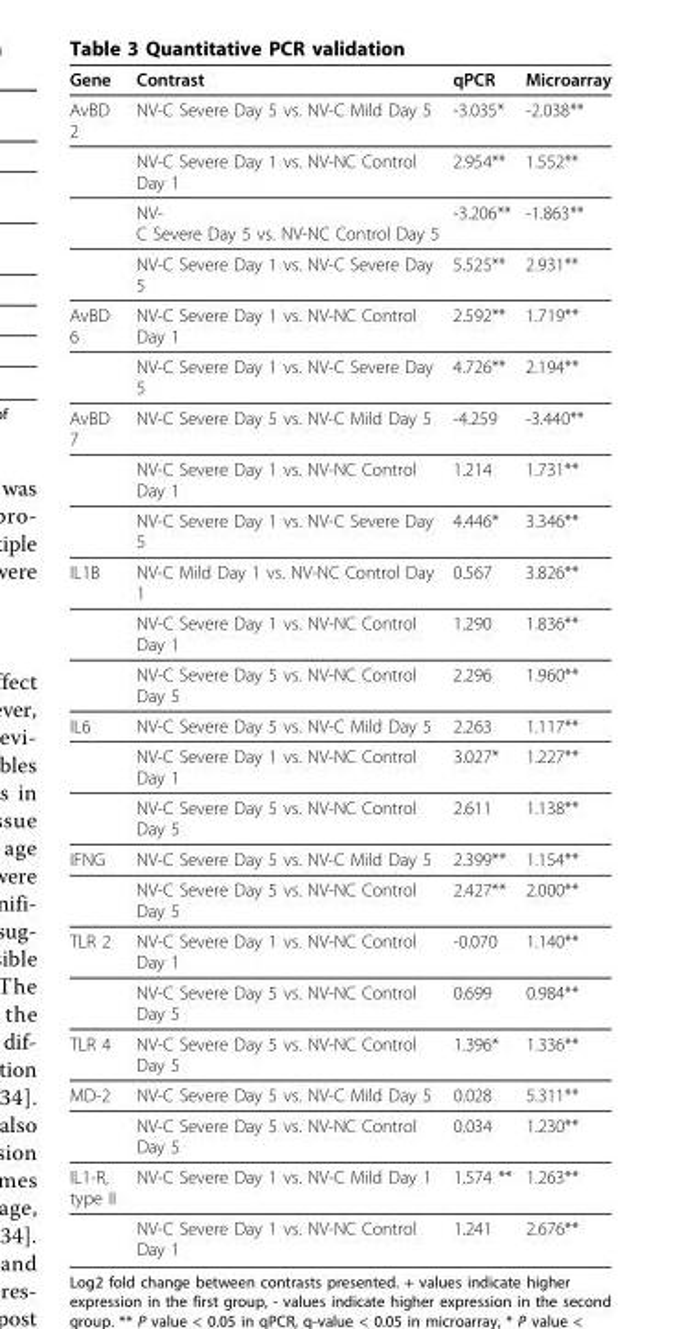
<table><thead><tr><td>Gene</td><td>Contrast</td><td>qPCR</td><td>Microarray</td></tr></thead><tbody><tr><td rowspan="4">AvBD 2</td><td>NV-C Severe Day 5 vs. NV-C Mild Day 5</td><td>-3.035*</td><td>-2.038**</td></tr><tr><td>NV-C Severe Day 1 vs. NV-NC Control Day 1</td><td>2.954**</td><td>1.552**</td></tr><tr><td>NV- C Severe Day 5 vs. NV-NC Control Day 5</td><td>-3.206**</td><td>-1.863**</td></tr><tr><td>NV-C Severe Day 1 vs. NV-C Severe Day 5</td><td>5.525**</td><td>2.931**</td></tr><tr><td rowspan="2">AvBD 6</td><td>NV-C Severe Day 1 vs. NV-NC Control Day 1</td><td>2.592**</td><td>1.719**</td></tr><tr><td>NV-C Severe Day 1 vs. NV-C Severe Day 5</td><td>4.726**</td><td>2.194**</td></tr><tr><td rowspan="3">AvBD 7</td><td>NV-C Severe Day 5 vs. NV-C Mild Day 5</td><td>-4.259</td><td>-3.440**</td></tr><tr><td>NV-C Severe Day 1 vs. NV-NC Control Day 1</td><td>1.214</td><td>1.731**</td></tr><tr><td>NV-C Severe Day 1 vs. NV-C Severe Day 5</td><td>4.446*</td><td>3.346**</td></tr><tr><td rowspan="3">IL1B</td><td>NV-C Mild Day 1 vs. NV-NC Control Day 1</td><td>0.567</td><td>3.826**</td></tr><tr><td>NV-C Severe Day 1 vs. NV-NC Control Day 1</td><td>1.290</td><td>1.836**</td></tr><tr><td>NV-C Severe Day 5 vs. NV-NC Control Day 5</td><td>2.296</td><td>1.960**</td></tr><tr><td rowspan="3">IL6</td><td>NV-C Severe Day 5 vs. NV-C Mild Day 5</td><td>2.263</td><td>1.117**</td></tr><tr><td>NV-C Severe Day 1 vs. NV-NC Control Day 1</td><td>3.027*</td><td>1.227**</td></tr><tr><td>NV-C Severe Day 5 vs. NV-NC Control Day 5</td><td>2.611</td><td>1.138**</td></tr><tr><td rowspan="2">IFNG</td><td>NV-C Severe Day 5 vs. NV-C Mild Day 5</td><td>2.399**</td><td>1.154**</td></tr><tr><td>NV-C Severe Day 5 vs. NV-NC Control Day 5</td><td>2.427**</td><td>2.000**</td></tr><tr><td rowspan="2">TLR 2</td><td>NV-C Severe Day 1 vs. NV-NC Control Day 1</td><td>-0.070</td><td>1.140**</td></tr><tr><td>NV-C Severe Day 5 vs. NV-NC Control Day 5</td><td>0.699</td><td>0.984**</td></tr><tr><td>TLR 4</td><td>NV-C Severe Day 5 vs. NV-NC Control Day 5</td><td>1.396*</td><td>1.336**</td></tr><tr><td rowspan="2">MD-2</td><td>NV-C Severe Day 5 vs. NV-C Mild Day 5</td><td>0.028</td><td>5.311**</td></tr><tr><td>NV-C Severe Day 5 vs. NV-NC Control Day 5</td><td>0.034</td><td>1.230**</td></tr><tr><td rowspan="2">IL1-R, type II</td><td>NV-C Severe Day 1 vs. NV-C Mild Day 1</td><td>1.574 **</td><td>1.263**</td></tr><tr><td>NV-C Severe Day 1 vs. NV-NC Control Day 1</td><td>1.241</td><td>2.676**</td></tr></tbody></table>